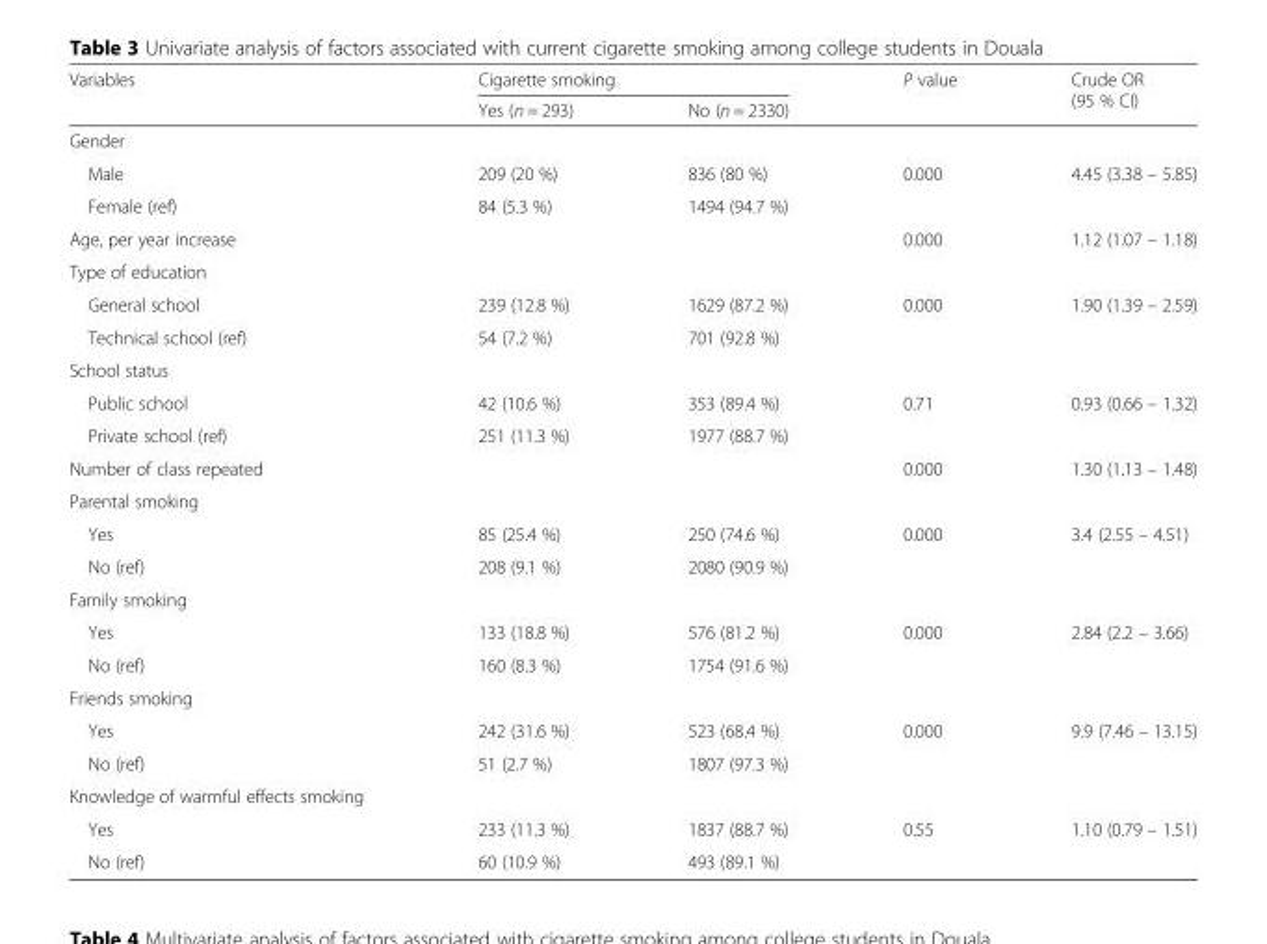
<table><thead><tr><td rowspan="2">Variables</td><td colspan="2">Cigarette smoking</td><td rowspan="2">P value</td><td rowspan="2">Crude OR (95 % CI)</td></tr><tr><td>Yes (n = 293)</td><td>No (n = 2330)</td></tr></thead><tbody><tr><td colspan="5">Gender</td></tr><tr><td>Male</td><td>209 (20 %)</td><td>836 (80 %)</td><td rowspan="2">0.000</td><td rowspan="2">4.45 (3.38 – 5.85)</td></tr><tr><td>Female (ref)</td><td>84 (5.3 %)</td><td>1494 (94.7 %)</td></tr><tr><td>Age, per year increase</td><td></td><td></td><td>0.000</td><td>1.12 (1.07 – 1.18)</td></tr><tr><td colspan="5">Type of education</td></tr><tr><td>General school</td><td>239 (12.8 %)</td><td>1629 (87.2 %)</td><td rowspan="2">0.000</td><td rowspan="2">1.90 (1.39 – 2.59)</td></tr><tr><td>Technical school (ref)</td><td>54 (7.2 %)</td><td>701 (92.8 %)</td></tr><tr><td colspan="5">School status</td></tr><tr><td>Public school</td><td>42 (10.6 %)</td><td>353 (89.4 %)</td><td rowspan="2">0.71</td><td rowspan="2">0.93 (0.66 – 1.32)</td></tr><tr><td>Private school (ref)</td><td>251 (11.3 %)</td><td>1977 (88.7 %)</td></tr><tr><td>Number of class repeated</td><td></td><td></td><td>0.000</td><td>1.30 (1.13 – 1.48)</td></tr><tr><td colspan="5">Parental smoking</td></tr><tr><td>Yes</td><td>85 (25.4 %)</td><td>250 (74.6 %)</td><td rowspan="2">0.000</td><td rowspan="2">3.4 (2.55 – 4.51)</td></tr><tr><td>No (ref)</td><td>208 (9.1 %)</td><td>2080 (90.9 %)</td></tr><tr><td colspan="5">Family smoking</td></tr><tr><td>Yes</td><td>133 (18.8 %)</td><td>576 (81.2 %)</td><td rowspan="2">0.000</td><td rowspan="2">2.84 (2.2 – 3.66)</td></tr><tr><td>No (ref)</td><td>160 (8.3 %)</td><td>1754 (91.6 %)</td></tr><tr><td colspan="5">Friends smoking</td></tr><tr><td>Yes</td><td>242 (31.6 %)</td><td>523 (68.4 %)</td><td rowspan="2">0.000</td><td rowspan="2">9.9 (7.46 – 13.15)</td></tr><tr><td>No (ref)</td><td>51 (2.7 %)</td><td>1807 (97.3 %)</td></tr><tr><td colspan="5">Knowledge of warmful effects smoking</td></tr><tr><td>Yes</td><td>233 (11.3 %)</td><td>1837 (88.7 %)</td><td rowspan="2">0.55</td><td rowspan="2">1.10 (0.79 – 1.51)</td></tr><tr><td>No (ref)</td><td>60 (10.9 %)</td><td>493 (89.1 %)</td></tr></tbody></table>